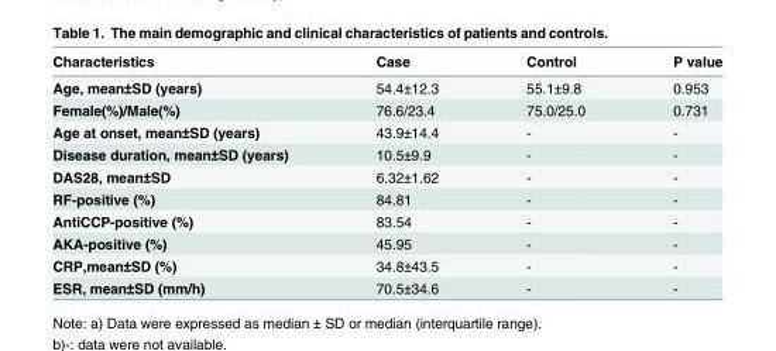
<table><thead><tr><td>Characteristics</td><td>Case</td><td>Control</td><td>P value</td></tr></thead><tbody><tr><td>Age, mean±SD (years)</td><td>54.4±12.3</td><td>55.1±9.8</td><td>0.953</td></tr><tr><td>Female(%)/Male(%)</td><td>76.6/23.4</td><td>75.0/25.0</td><td>0.731</td></tr><tr><td>Age at onset, mean±SD (years)</td><td>43.9±14.4</td><td>-</td><td>-</td></tr><tr><td>Disease duration, mean±SD (years)</td><td>10.5±9.9</td><td>-</td><td>-</td></tr><tr><td>DAS28, mean±SD</td><td>6.32±1.62</td><td>-</td><td>-</td></tr><tr><td>RF-positive (%)</td><td>84.81</td><td>-</td><td>-</td></tr><tr><td>AntiCCP-positive (%)</td><td>83.54</td><td>-</td><td>-</td></tr><tr><td>AKA-positive (%)</td><td>45.95</td><td>-</td><td>-</td></tr><tr><td>CRP,mean±SD (%)</td><td>34.8±43.5</td><td>-</td><td>-</td></tr><tr><td>ESR, mean±SD (mm/h)</td><td>70.5±34.6</td><td>-</td><td>-</td></tr></tbody></table>